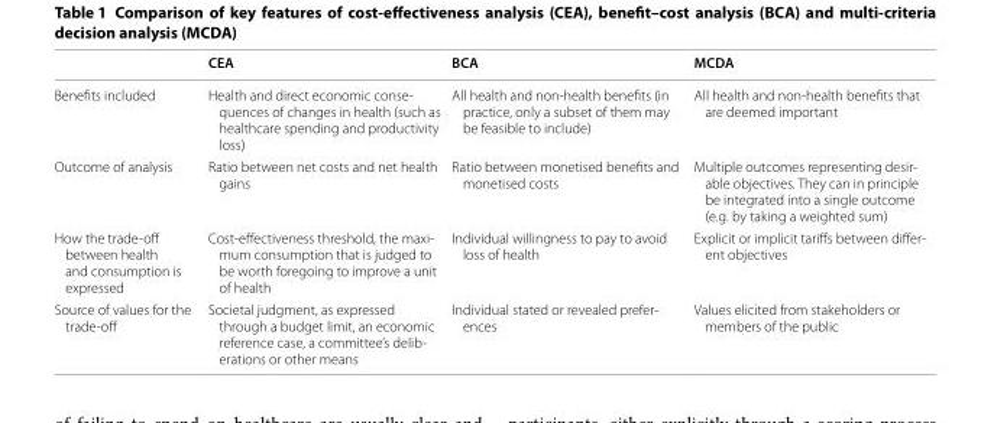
<table><thead><tr><td></td><td>CEA</td><td>BCA</td><td>MCDA</td></tr></thead><tbody><tr><td>Benefits included</td><td>Health and direct economic conse- quences of changes in health (such as healthcare spending and productivity loss)</td><td>All health and non-health benefits (in practice, only a subset of them may be feasible to include)</td><td>All health and non-health benefits that are deemed important</td></tr><tr><td>Outcome of analysis</td><td>Ratio between net costs and net health gains</td><td>Ratio between monetised benefits and monetised costs</td><td>Multiple outcomes representing desir- able objectives. They can in principle be integrated into a single outcome (e.g. by taking a weighted sum)</td></tr><tr><td>How the trade-off between health and consumption is expressed</td><td>Cost-effectiveness threshold, the maxi- mum consumption that is judged to be worth foregoing to improve a unit of health</td><td>Individual willingness to pay to avoid loss of health</td><td>Explicit or implicit tariffs between differ- ent objectives</td></tr><tr><td>Source of values for the trade-off</td><td>Societal judgment, as expressed through a budget limit, an economic reference case, a committee’s delib- erations or other means</td><td>Individual stated or revealed prefer- ences</td><td>Values elicited from stakeholders or members of the public</td></tr></tbody></table>